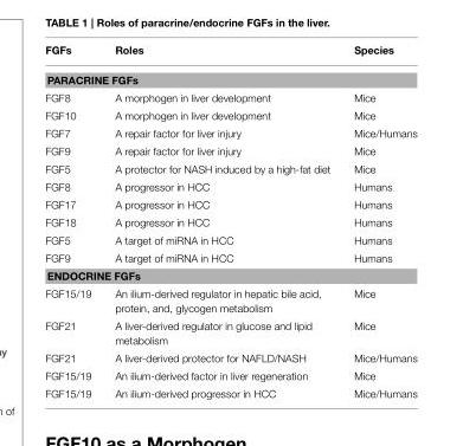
<table><thead><tr><td>FGFs</td><td>Roles</td><td>Species</td></tr></thead><tbody><tr><td colspan="3">PARACRINE FGFs</td></tr><tr><td>FGF8</td><td>A morphogen in liver development</td><td>Mice</td></tr><tr><td>FGF10</td><td>A morphogen in liver development</td><td>Mice</td></tr><tr><td>FGF7</td><td>A repair factor for liver injury</td><td>Mice/Humans</td></tr><tr><td>FGF9</td><td>A repair factor for liver injury</td><td>Mice</td></tr><tr><td>FGF5</td><td>A protector for NASH induced by a high-fat diet</td><td>Mice</td></tr><tr><td>FGF8</td><td>A progressor in HCC</td><td>Humans</td></tr><tr><td>FGF17</td><td>A progressor in HCC</td><td>Humans</td></tr><tr><td>FGF18</td><td>A progressor in HCC</td><td>Humans</td></tr><tr><td>FGF5</td><td>A target of miRNA in HCC</td><td>Humans</td></tr><tr><td>FGF9</td><td>A target of miRNA in HCC</td><td>Humans</td></tr><tr><td colspan="3">ENDOCRINE FGFs</td></tr><tr><td>FGF15/19</td><td>An ilium-derived regulator in hepatic bile acid, protein, and, glycogen metabolism</td><td>Mice</td></tr><tr><td>FGF21</td><td>A liver-derived regulator in glucose and lipid metabolism</td><td>Mice</td></tr><tr><td>FGF21</td><td>A liver-derived protector for NAFLD/NASH</td><td>Mice/Humans</td></tr><tr><td>FGF15/19</td><td>An ilium-derived factor in liver regeneration</td><td>Mice</td></tr><tr><td>FGF15/19</td><td>An ilium-derived progressor in HCC</td><td>Mice/Humans</td></tr></tbody></table>